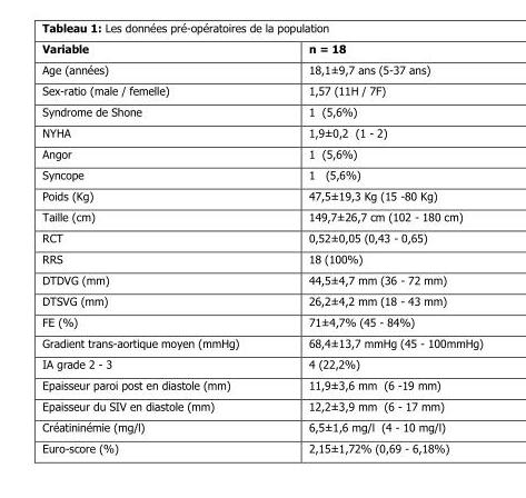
<table><thead><tr><td>Variable</td><td>n = 18</td></tr></thead><tbody><tr><td>Age (années)</td><td>18,1±9,7 ans (5-37 ans)</td></tr><tr><td>Sex-ratio (male / femelle)</td><td>1,57 (11H / 7F)</td></tr><tr><td>Syndrome de Shone</td><td>1 (5,6%)</td></tr><tr><td>NYHA</td><td>1,9±0,2 (1 - 2)</td></tr><tr><td>Angor</td><td>1 (5,6%)</td></tr><tr><td>Syncope</td><td>1 (5,6%)</td></tr><tr><td>Poids (Kg)</td><td>47,5±19,3 Kg (15 -80 Kg)</td></tr><tr><td>Taille (cm)</td><td>149,7±26,7 cm (102 - 180 cm)</td></tr><tr><td>RCT</td><td>0,52±0,05 (0,43 - 0,65)</td></tr><tr><td>RRS</td><td>18 (100%)</td></tr><tr><td>DTDVG (mm)</td><td>44,5±4,7 mm (36 - 72 mm)</td></tr><tr><td>DTSVG (mm)</td><td>26,2±4,2 mm (18 - 43 mm)</td></tr><tr><td>FE (%)</td><td>71±4,7% (45 - 84%)</td></tr><tr><td>Gradient trans-aortique moyen (mmHg)</td><td>68,4±13,7 mmHg (45 - 100mmHg)</td></tr><tr><td>IA grade 2 - 3</td><td>4 (22,2%)</td></tr><tr><td>Epaisseur paroi post en diastole (mm)</td><td>11,9±3,6 mm (6 -19 mm)</td></tr><tr><td>Epaisseur du SIV en diastole (mm)</td><td>12,2±3,9 mm (6 - 17 mm)</td></tr><tr><td>Créatininémie (mg/l)</td><td>6,5±1,6 mg/l (4 - 10 mg/l)</td></tr><tr><td>Euro-score (%)</td><td>2,15±1,72% (0,69 - 6,18%)</td></tr></tbody></table>